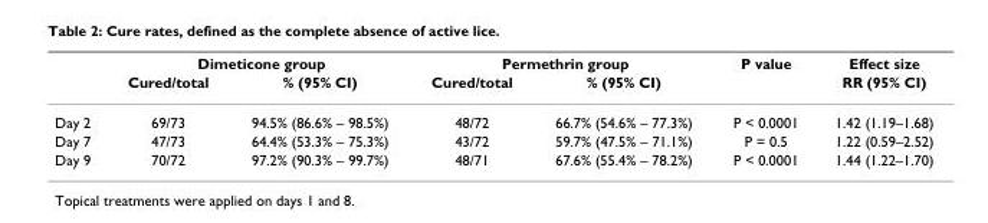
<table><thead><tr><td rowspan="2"></td><td colspan="2">Dimeticone group</td><td colspan="2">Permethrin group</td><td rowspan="2">P value</td><td rowspan="2">Effect size RR (95% CI)</td></tr><tr><td>Cured/total</td><td>% (95% CI)</td><td>Cured/total</td><td>% (95% CI)</td></tr></thead><tbody><tr><td>Day 2</td><td>69/73</td><td>94.5% (86.6% – 98.5%)</td><td>48/72</td><td>66.7% (54.6% – 77.3%)</td><td>P &lt; 0.0001</td><td>1.42 (1.19–1.68)</td></tr><tr><td>Day 7</td><td>47/73</td><td>64.4% (53.3% – 75.3%)</td><td>43/72</td><td>59.7% (47.5% – 71.1%)</td><td>P = 0.5</td><td>1.22 (0.59–2.52)</td></tr><tr><td>Day 9</td><td>70/72</td><td>97.2% (90.3% – 99.7%)</td><td>48/71</td><td>67.6% (55.4% – 78.2%)</td><td>P &lt; 0.0001</td><td>1.44 (1.22–1.70)</td></tr></tbody></table>